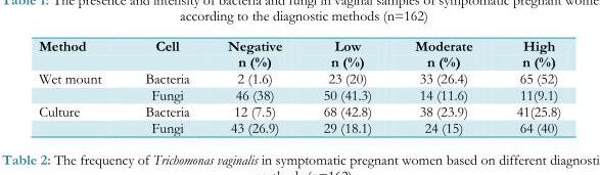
<table><thead><tr><td>Method</td><td>Cell</td><td>Negative n (%)</td><td>Low n (%)</td><td>Moderate n (%)</td><td>High n (%)</td></tr></thead><tbody><tr><td rowspan="2">Wet mount</td><td>Bacteria</td><td>2 (1.6)</td><td>23 (20)</td><td>33 (26.4)</td><td>65 (52)</td></tr><tr><td>Fungi</td><td>46 (38)</td><td>50 (41.3)</td><td>14 (11.6)</td><td>11(9.1)</td></tr><tr><td rowspan="2">Culture</td><td>Bacteria</td><td>12 (7.5)</td><td>68 (42.8)</td><td>38 (23.9)</td><td>41(25.8)</td></tr><tr><td>Fungi</td><td>43 (26.9)</td><td>29 (18.1)</td><td>24 (15)</td><td>64 (40)</td></tr></tbody></table>